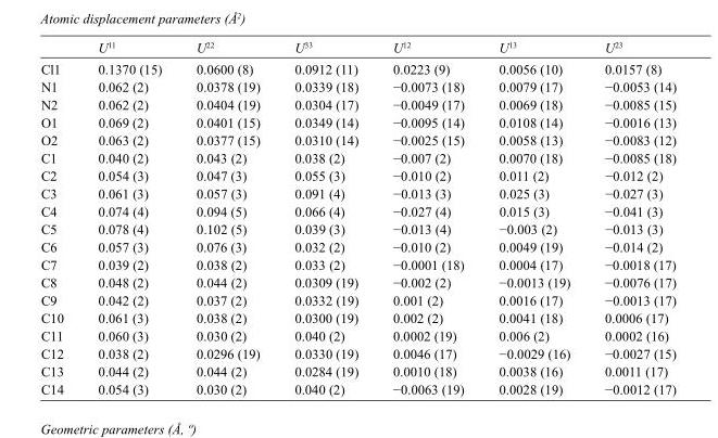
<table><thead><tr><td></td><td>U<sup>11</sup></td><td>U<sup>22</sup></td><td>U<sup>33</sup></td><td>U<sup>12</sup></td><td>U<sup>13</sup></td><td>U<sup>23</sup></td></tr></thead><tbody><tr><td>Cl1</td><td>0.1370 (15)</td><td>0.0600 (8)</td><td>0.0912 (11)</td><td>0.0223 (9)</td><td>0.0056 (10)</td><td>0.0157 (8)</td></tr><tr><td>N1</td><td>0.062 (2)</td><td>0.0378 (19)</td><td>0.0339 (18)</td><td>−0.0073 (18)</td><td>0.0079 (17)</td><td>−0.0053 (14)</td></tr><tr><td>N2</td><td>0.062 (2)</td><td>0.0404 (19)</td><td>0.0304 (17)</td><td>−0.0049 (17)</td><td>0.0069 (18)</td><td>−0.0085 (15)</td></tr><tr><td>O1</td><td>0.069 (2)</td><td>0.0401 (15)</td><td>0.0349 (14)</td><td>−0.0095 (14)</td><td>0.0108 (14)</td><td>−0.0016 (13)</td></tr><tr><td>O2</td><td>0.063 (2)</td><td>0.0377 (15)</td><td>0.0310 (14)</td><td>−0.0025 (15)</td><td>0.0058 (13)</td><td>−0.0083 (12)</td></tr><tr><td>C1</td><td>0.040 (2)</td><td>0.043 (2)</td><td>0.038 (2)</td><td>−0.007 (2)</td><td>0.0070 (18)</td><td>−0.0085 (18)</td></tr><tr><td>C2</td><td>0.054 (3)</td><td>0.047 (3)</td><td>0.055 (3)</td><td>−0.010 (2)</td><td>0.011 (2)</td><td>−0.012 (2)</td></tr><tr><td>C3</td><td>0.061 (3)</td><td>0.057 (3)</td><td>0.091 (4)</td><td>−0.013 (3)</td><td>0.025 (3)</td><td>−0.027 (3)</td></tr><tr><td>C4</td><td>0.074 (4)</td><td>0.094 (5)</td><td>0.066 (4)</td><td>−0.027 (4)</td><td>0.015 (3)</td><td>−0.041 (3)</td></tr><tr><td>C5</td><td>0.078 (4)</td><td>0.102 (5)</td><td>0.039 (3)</td><td>−0.013 (4)</td><td>−0.003 (2)</td><td>−0.013 (3)</td></tr><tr><td>C6</td><td>0.057 (3)</td><td>0.076 (3)</td><td>0.032 (2)</td><td>−0.010 (2)</td><td>0.0049 (19)</td><td>−0.014 (2)</td></tr><tr><td>C7</td><td>0.039 (2)</td><td>0.038 (2)</td><td>0.033 (2)</td><td>−0.0001 (18)</td><td>0.0004 (17)</td><td>−0.0018 (17)</td></tr><tr><td>C8</td><td>0.048 (2)</td><td>0.044 (2)</td><td>0.0309 (19)</td><td>−0.002 (2)</td><td>−0.0013 (19)</td><td>−0.0076 (17)</td></tr><tr><td>C9</td><td>0.042 (2)</td><td>0.037 (2)</td><td>0.0332 (19)</td><td>0.001 (2)</td><td>0.0016 (17)</td><td>−0.0013 (17)</td></tr><tr><td>C10</td><td>0.061 (3)</td><td>0.038 (2)</td><td>0.0300 (19)</td><td>0.002 (2)</td><td>0.0041 (18)</td><td>0.0006 (17)</td></tr><tr><td>C11</td><td>0.060 (3)</td><td>0.030 (2)</td><td>0.040 (2)</td><td>0.0002 (19)</td><td>0.006 (2)</td><td>0.0002 (16)</td></tr><tr><td>C12</td><td>0.038 (2)</td><td>0.0296 (19)</td><td>0.0330 (19)</td><td>0.0046 (17)</td><td>−0.0029 (16)</td><td>−0.0027 (15)</td></tr><tr><td>C13</td><td>0.044 (2)</td><td>0.044 (2)</td><td>0.0284 (19)</td><td>0.0010 (18)</td><td>0.0038 (16)</td><td>0.0011 (17)</td></tr><tr><td>C14</td><td>0.054 (3)</td><td>0.030 (2)</td><td>0.040 (2)</td><td>−0.0063 (19)</td><td>0.0028 (19)</td><td>−0.0012 (17)</td></tr></tbody></table>